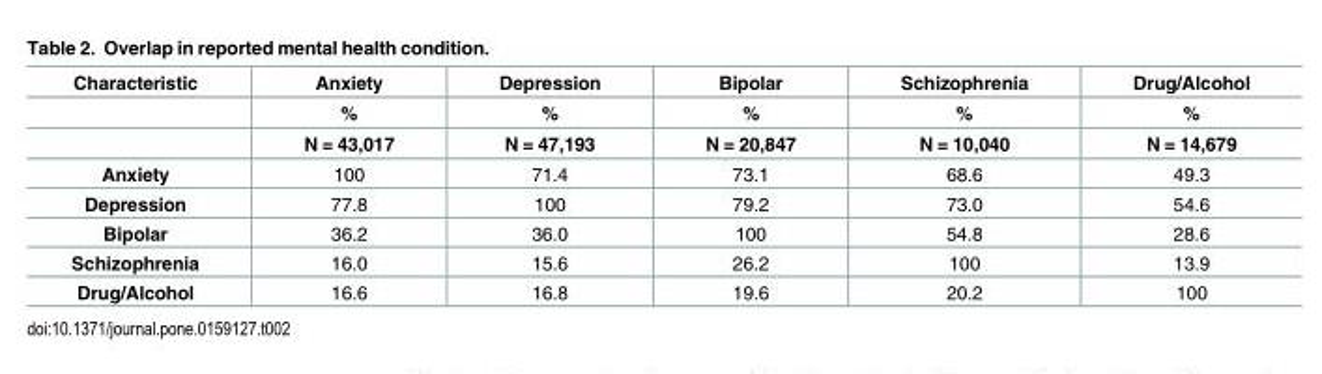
<table><thead><tr><td rowspan="3">Characteristic</td><td rowspan="3">Anxiety % N = 43,017</td><td rowspan="3">Depression % N = 47,193</td><td rowspan="3">Bipolar % N = 20,847</td><td rowspan="3">Schizophrenia % N = 10,040</td><td rowspan="3">Drug/Alcohol % N = 14,679</td></tr><tr></tr><tr></tr></thead><tbody><tr><td>Anxiety</td><td>100</td><td>71.4</td><td>73.1</td><td>68.6</td><td>49.3</td></tr><tr><td>Depression</td><td>77.8</td><td>100</td><td>79.2</td><td>73.0</td><td>54.6</td></tr><tr><td>Bipolar</td><td>36.2</td><td>36.0</td><td>100</td><td>54.8</td><td>28.6</td></tr><tr><td>Schizophrenia</td><td>16.0</td><td>15.6</td><td>26.2</td><td>100</td><td>13.9</td></tr><tr><td>Drug/Alcohol</td><td>16.6</td><td>16.8</td><td>19.6</td><td>20.2</td><td>100</td></tr></tbody></table>